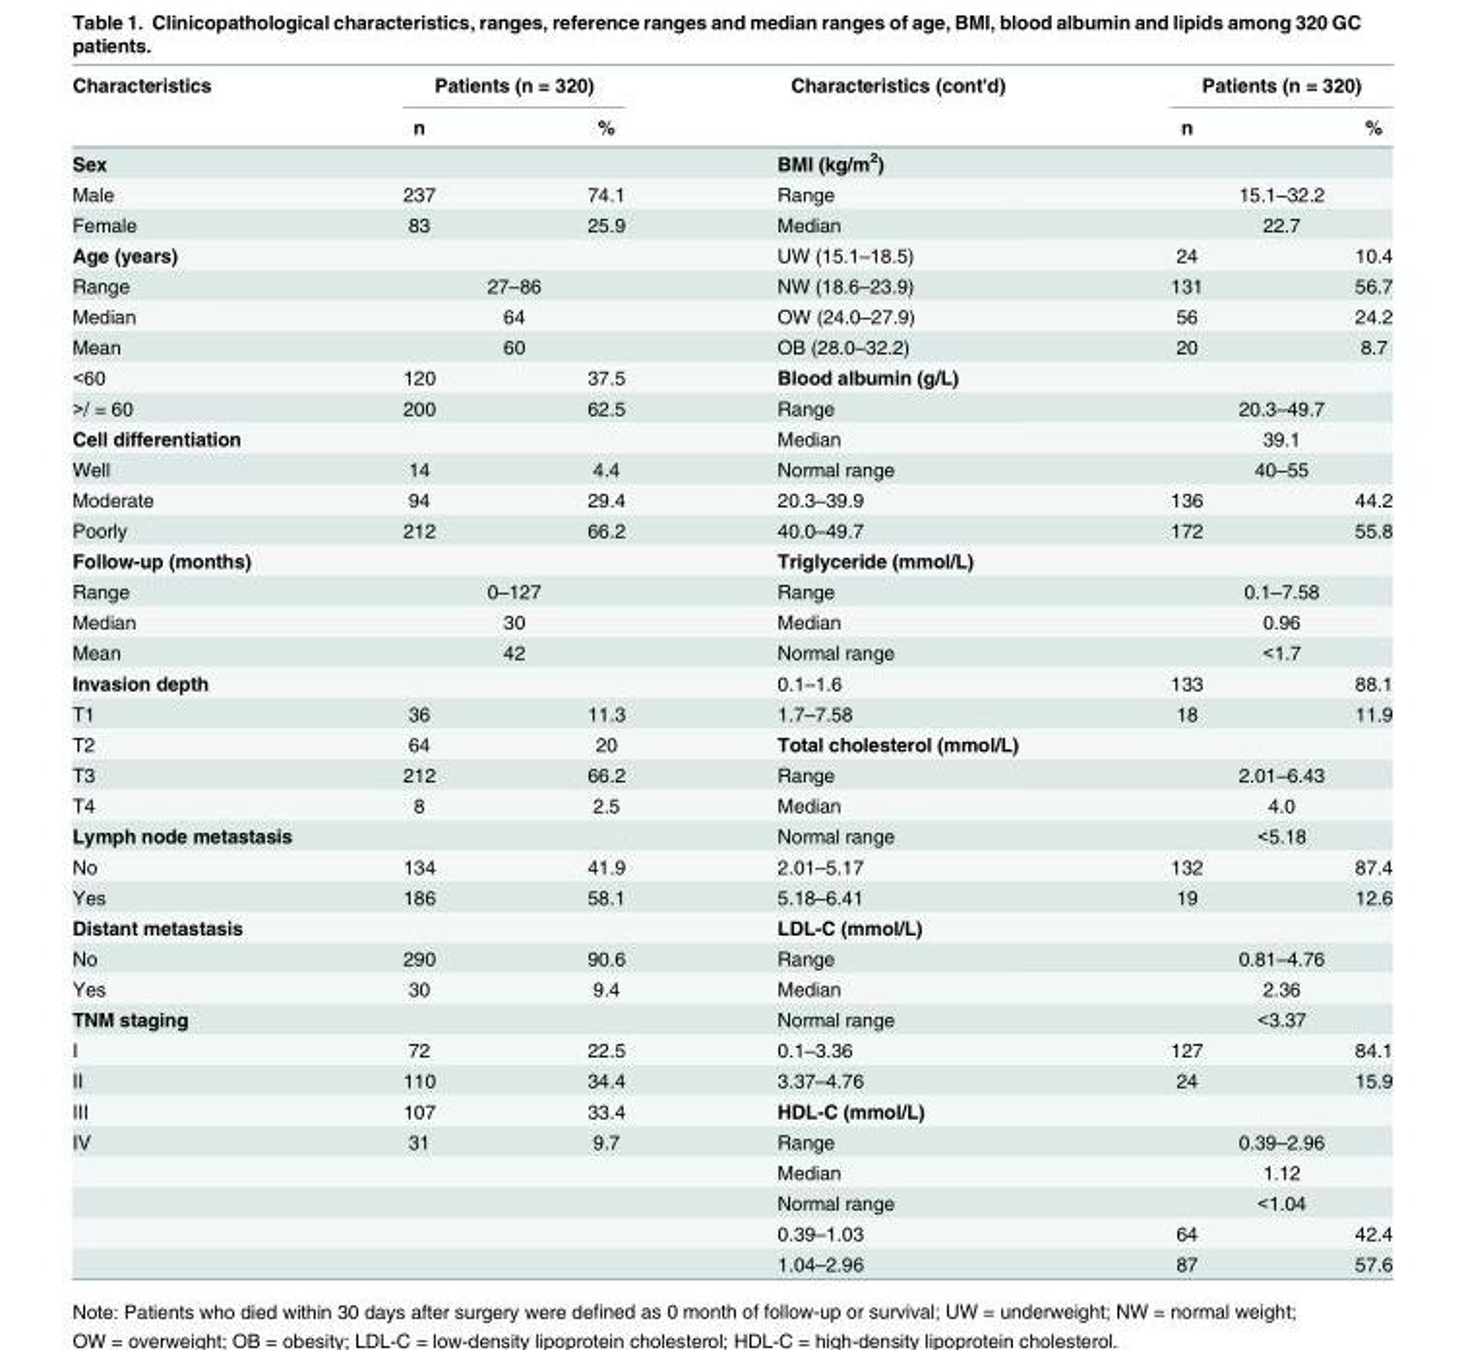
<table><thead><tr><td rowspan="2">Characteristics</td><td colspan="2">Patients (n = 320)</td><td rowspan="2">Characteristics (cont&#x27;d)</td><td colspan="2">Patients (n = 320)</td></tr><tr><td>n</td><td>%</td><td>n</td><td>%</td></tr></thead><tbody><tr><td>Sex</td><td></td><td></td><td>BMI (kg/m<sup>2</sup>)</td><td></td><td></td></tr><tr><td>Male</td><td>237</td><td>74.1</td><td>Range</td><td colspan="2">15.1–32.2</td></tr><tr><td>Female</td><td>83</td><td>25.9</td><td>Median</td><td colspan="2">22.7</td></tr><tr><td>Age (years)</td><td></td><td></td><td>UW (15.1–18.5)</td><td>24</td><td>10.4</td></tr><tr><td>Range</td><td colspan="2">27–86</td><td>NW (18.6–23.9)</td><td>131</td><td>56.7</td></tr><tr><td>Median</td><td colspan="2">64</td><td>OW (24.0–27.9)</td><td>56</td><td>24.2</td></tr><tr><td>Mean</td><td colspan="2">60</td><td>OB (28.0–32.2)</td><td>20</td><td>8.7</td></tr><tr><td>&lt;60</td><td>120</td><td>37.5</td><td>Blood albumin (g/L)</td><td></td><td></td></tr><tr><td>&gt;/ = 60</td><td>200</td><td>62.5</td><td>Range</td><td colspan="2">20.3–49.7</td></tr><tr><td>Cell differentiation</td><td></td><td></td><td>Median</td><td colspan="2">39.1</td></tr><tr><td>Well</td><td>14</td><td>4.4</td><td>Normal range</td><td colspan="2">40–55</td></tr><tr><td>Moderate</td><td>94</td><td>29.4</td><td>20.3–39.9</td><td>136</td><td>44.2</td></tr><tr><td>Poorly</td><td>212</td><td>66.2</td><td>40.0–49.7</td><td>172</td><td>55.8</td></tr><tr><td>Follow-up (months)</td><td></td><td></td><td>Triglyceride (mmol/L)</td><td></td><td></td></tr><tr><td>Range</td><td colspan="2">0–127</td><td>Range</td><td colspan="2">0.1–7.58</td></tr><tr><td>Median</td><td colspan="2">30</td><td>Median</td><td colspan="2">0.96</td></tr><tr><td>Mean</td><td colspan="2">42</td><td>Normal range</td><td colspan="2">&lt;1.7</td></tr><tr><td>Invasion depth</td><td></td><td></td><td>0.1–1.6</td><td>133</td><td>88.1</td></tr><tr><td>T1</td><td>36</td><td>11.3</td><td>1.7–7.58</td><td>18</td><td>11.9</td></tr><tr><td>T2</td><td>64</td><td>20</td><td>Total cholesterol (mmol/L)</td><td></td><td></td></tr><tr><td>T3</td><td>212</td><td>66.2</td><td>Range</td><td colspan="2">2.01–6.43</td></tr><tr><td>T4</td><td>8</td><td>2.5</td><td>Median</td><td colspan="2">4.0</td></tr><tr><td colspan="2">Lymph node metastasis</td><td></td><td>Normal range</td><td colspan="2">&lt;5.18</td></tr><tr><td>No</td><td>134</td><td>41.9</td><td>2.01–5.17</td><td>132</td><td>87.4</td></tr><tr><td>Yes</td><td>186</td><td>58.1</td><td>5.18–6.41</td><td>19</td><td>12.6</td></tr><tr><td>Distant metastasis</td><td></td><td></td><td>LDL-C (mmol/L)</td><td></td><td></td></tr><tr><td>No</td><td>290</td><td>90.6</td><td>Range</td><td colspan="2">0.81–4.76</td></tr><tr><td>Yes</td><td>30</td><td>9.4</td><td>Median</td><td colspan="2">2.36</td></tr><tr><td>TNM staging</td><td></td><td></td><td>Normal range</td><td colspan="2">&lt;3.37</td></tr><tr><td>I</td><td>72</td><td>22.5</td><td>0.1–3.36</td><td>127</td><td>84.1</td></tr><tr><td>II</td><td>110</td><td>34.4</td><td>3.37–4.76</td><td>24</td><td>15.9</td></tr><tr><td>III</td><td>107</td><td>33.4</td><td>HDL-C (mmol/L)</td><td></td><td></td></tr><tr><td rowspan="5">IV</td><td>31</td><td>9.7</td><td>Range</td><td colspan="2">0.39–2.96</td></tr><tr><td></td><td></td><td>Median</td><td colspan="2">1.12</td></tr><tr><td></td><td></td><td>Normal range</td><td colspan="2">&lt;1.04</td></tr><tr><td></td><td></td><td>0.39–1.03</td><td>64</td><td>42.4</td></tr><tr><td></td><td></td><td>1.04–2.96</td><td>87</td><td>57.6</td></tr></tbody></table>